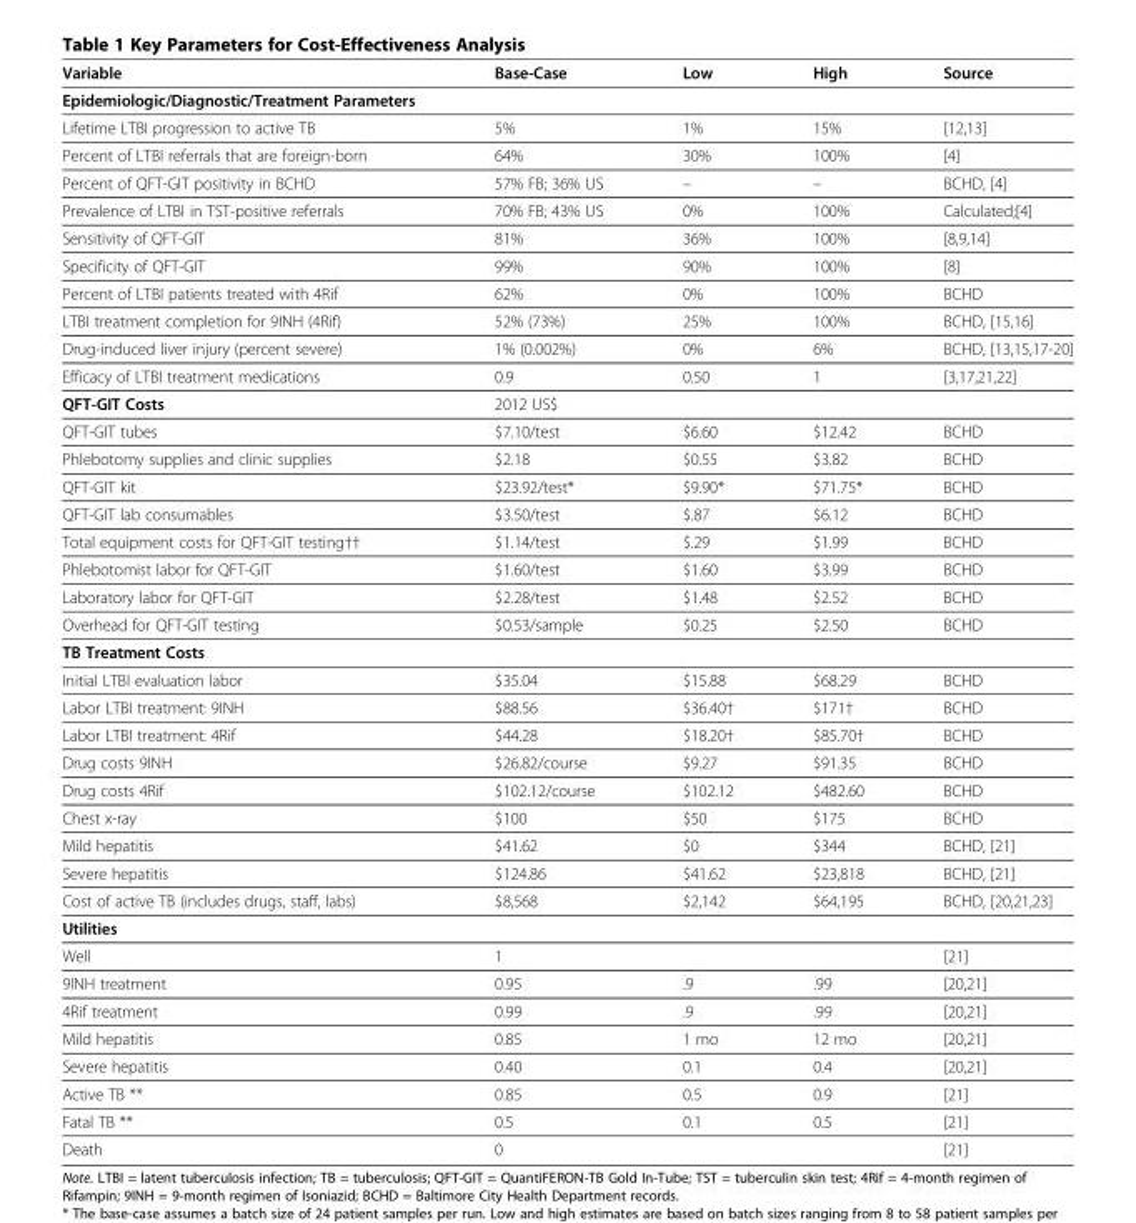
<table><thead><tr><td>Variable</td><td>Base-Case</td><td>Low</td><td>High</td><td>Source</td></tr></thead><tbody><tr><td colspan="5">Epidemiologic/Diagnostic/Treatment Parameters</td></tr><tr><td>Lifetime LTBI progression to active TB</td><td>5%</td><td>1%</td><td>15%</td><td>[12,13]</td></tr><tr><td>Percent of LTBI referrals that are foreign-born</td><td>64%</td><td>30%</td><td>100%</td><td>[4]</td></tr><tr><td>Percent of QFT-GIT positivity in BCHD</td><td>57% FB; 36% US</td><td>–</td><td>–</td><td>BCHD, [4]</td></tr><tr><td>Prevalence of LTBI in TST-positive referrals</td><td>70% FB; 43% US</td><td>0%</td><td>100%</td><td>Calculated;[4]</td></tr><tr><td>Sensitivity of QFT-GIT</td><td>81%</td><td>36%</td><td>100%</td><td>[8,9,14]</td></tr><tr><td>Specificity of QFT-GIT</td><td>99%</td><td>90%</td><td>100%</td><td>[8]</td></tr><tr><td>Percent of LTBI patients treated with 4Rif</td><td>62%</td><td>0%</td><td>100%</td><td>BCHD</td></tr><tr><td>LTBI treatment completion for 9INH (4Rif)</td><td>52% (73%)</td><td>25%</td><td>100%</td><td>BCHD, [15,16]</td></tr><tr><td>Drug-induced liver injury (percent severe)</td><td>1% (0.002%)</td><td>0%</td><td>6%</td><td>BCHD, [13,15,17-20]</td></tr><tr><td>Efficacy of LTBI treatment medications</td><td>0.9</td><td>0.50</td><td>1</td><td>[3,17,21,22]</td></tr><tr><td>QFT-GIT Costs</td><td>2012 US$</td><td></td><td></td><td></td></tr><tr><td>QFT-GIT tubes</td><td>$7.10/test</td><td>$6.60</td><td>$12.42</td><td>BCHD</td></tr><tr><td>Phlebotomy supplies and clinic supplies</td><td>$2.18</td><td>$0.55</td><td>$3.82</td><td>BCHD</td></tr><tr><td>QFT-GIT kit</td><td>$23.92/test*</td><td>$9.90*</td><td>$71.75*</td><td>BCHD</td></tr><tr><td>QFT-GIT lab consumables</td><td>$3.50/test</td><td>$.87</td><td>$6.12</td><td>BCHD</td></tr><tr><td>Total equipment costs for QFT-GIT testing††</td><td>$1.14/test</td><td>$.29</td><td>$1.99</td><td>BCHD</td></tr><tr><td>Phlebotomist labor for QFT-GIT</td><td>$1.60/test</td><td>$1.60</td><td>$3.99</td><td>BCHD</td></tr><tr><td>Laboratory labor for QFT-GIT</td><td>$2.28/test</td><td>$1.48</td><td>$2.52</td><td>BCHD</td></tr><tr><td>Overhead for QFT-GIT testing</td><td>$0.53/sample</td><td>$0.25</td><td>$2.50</td><td>BCHD</td></tr><tr><td colspan="5">TB Treatment Costs</td></tr><tr><td>Initial LTBI evaluation labor</td><td>$35.04</td><td>$15.88</td><td>$68.29</td><td>BCHD</td></tr><tr><td>Labor LTBI treatment: 9INH</td><td>$88.56</td><td>$36.40†</td><td>$171†</td><td>BCHD</td></tr><tr><td>Labor LTBI treatment: 4Rif</td><td>$44.28</td><td>$18.20†</td><td>$85.70†</td><td>BCHD</td></tr><tr><td>Drug costs 9INH</td><td>$26.82/course</td><td>$9.27</td><td>$91.35</td><td>BCHD</td></tr><tr><td>Drug costs 4Rif</td><td>$102.12/course</td><td>$102.12</td><td>$482.60</td><td>BCHD</td></tr><tr><td>Chest x-ray</td><td>$100</td><td>$50</td><td>$175</td><td>BCHD</td></tr><tr><td>Mild hepatitis</td><td>$41.62</td><td>$0</td><td>$344</td><td>BCHD, [21]</td></tr><tr><td>Severe hepatitis</td><td>$124.86</td><td>$41.62</td><td>$23,818</td><td>BCHD, [21]</td></tr><tr><td>Cost of active TB (includes drugs, staff, labs)</td><td>$8,568</td><td>$2,142</td><td>$64,195</td><td>BCHD, [20,21,23]</td></tr><tr><td colspan="5">Utilities</td></tr><tr><td>Well</td><td>1</td><td></td><td></td><td>[21]</td></tr><tr><td>9INH treatment</td><td>0.95</td><td>.9</td><td>.99</td><td>[20,21]</td></tr><tr><td>4Rif treatment</td><td>0.99</td><td>.9</td><td>.99</td><td>[20,21]</td></tr><tr><td>Mild hepatitis</td><td>0.85</td><td>1 mo</td><td>12 mo</td><td>[20,21]</td></tr><tr><td>Severe hepatitis</td><td>0.40</td><td>0.1</td><td>0.4</td><td>[20,21]</td></tr><tr><td>Active TB **</td><td>0.85</td><td>0.5</td><td>0.9</td><td>[21]</td></tr><tr><td>Fatal TB **</td><td>0.5</td><td>0.1</td><td>0.5</td><td>[21]</td></tr><tr><td>Death</td><td>0</td><td></td><td></td><td>[21]</td></tr></tbody></table>